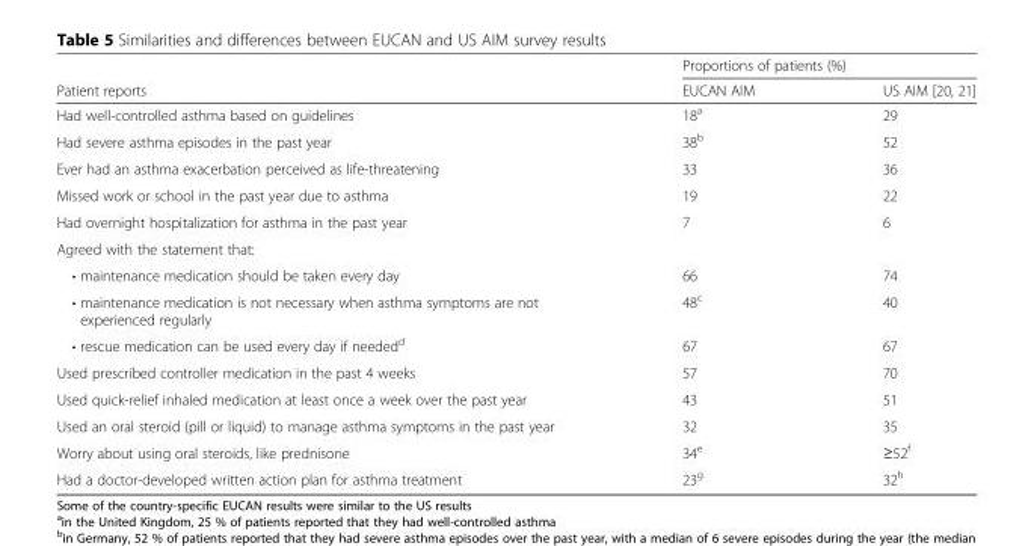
<table><thead><tr><td rowspan="2">Patient reports</td><td colspan="2">Proportions of patients (%)</td></tr><tr><td>EUCAN AIM</td><td>US AIM [20, 21]</td></tr></thead><tbody><tr><td>Had well-controlled asthma based on guidelines</td><td>18<sup>a</sup></td><td>29</td></tr><tr><td>Had severe asthma episodes in the past year</td><td>38<sup>b</sup></td><td>52</td></tr><tr><td>Ever had an asthma exacerbation perceived as life-threatening</td><td>33</td><td>36</td></tr><tr><td>Missed work or school in the past year due to asthma</td><td>19</td><td>22</td></tr><tr><td>Had overnight hospitalization for asthma in the past year</td><td>7</td><td>6</td></tr><tr><td colspan="3">Agreed with the statement that:</td></tr><tr><td>• maintenance medication should be taken every day</td><td>66</td><td>74</td></tr><tr><td>• maintenance medication is not necessary when asthma symptoms are not experienced regularly</td><td>48<sup>c</sup></td><td>40</td></tr><tr><td>• rescue medication can be used every day if needed<sup>d</sup></td><td>67</td><td>67</td></tr><tr><td>Used prescribed controller medication in the past 4 weeks</td><td>57</td><td>70</td></tr><tr><td>Used quick-relief inhaled medication at least once a week over the past year</td><td>43</td><td>51</td></tr><tr><td>Used an oral steroid (pill or liquid) to manage asthma symptoms in the past year</td><td>32</td><td>35</td></tr><tr><td>Worry about using oral steroids, like prednisone</td><td>34<sup>e</sup></td><td>≥52<sup>f</sup></td></tr><tr><td>Had a doctor-developed written action plan for asthma treatment</td><td>23<sup>g</sup></td><td>32<sup>h</sup></td></tr></tbody></table>